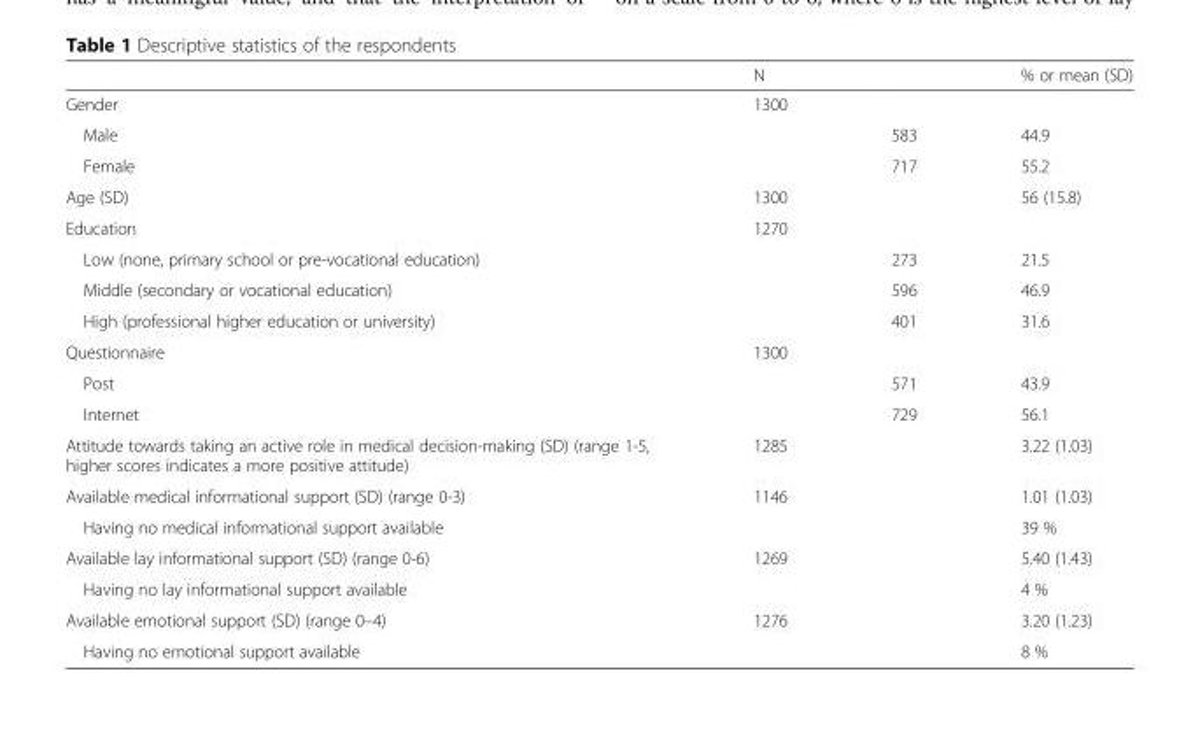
<table><thead><tr><td></td><td>N</td><td></td><td>% or mean (SD)</td></tr></thead><tbody><tr><td>Gender</td><td>1300</td><td></td><td></td></tr><tr><td>Male</td><td></td><td>583</td><td>44.9</td></tr><tr><td>Female</td><td></td><td>717</td><td>55.2</td></tr><tr><td>Age (SD)</td><td>1300</td><td></td><td>56 (15.8)</td></tr><tr><td>Education</td><td>1270</td><td></td><td></td></tr><tr><td>Low (none, primary school or pre-vocational education)</td><td></td><td>273</td><td>21.5</td></tr><tr><td>Middle (secondary or vocational education)</td><td></td><td>596</td><td>46.9</td></tr><tr><td>High (professional higher education or university)</td><td></td><td>401</td><td>31.6</td></tr><tr><td>Questionnaire</td><td>1300</td><td></td><td></td></tr><tr><td>Post</td><td></td><td>571</td><td>43.9</td></tr><tr><td>Internet</td><td></td><td>729</td><td>56.1</td></tr><tr><td>Attitude towards taking an active role in medical decision-making (SD) (range 1-5, higher scores indicates a more positive attitude)</td><td>1285</td><td></td><td>3.22 (1.03)</td></tr><tr><td>Available medical informational support (SD) (range 0-3)</td><td>1146</td><td></td><td>1.01 (1.03)</td></tr><tr><td>Having no medical informational support available</td><td></td><td></td><td>39 %</td></tr><tr><td>Available lay informational support (SD) (range 0-6)</td><td>1269</td><td></td><td>5.40 (1.43)</td></tr><tr><td>Having no lay informational support available</td><td></td><td></td><td>4 %</td></tr><tr><td>Available emotional support (SD) (range 0–4)</td><td>1276</td><td></td><td>3.20 (1.23)</td></tr><tr><td>Having no emotional support available</td><td></td><td></td><td>8 %</td></tr></tbody></table>